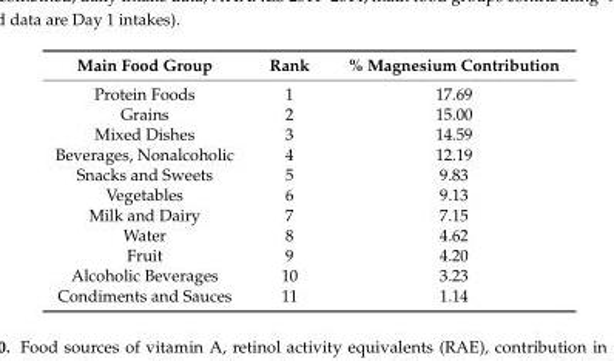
<table><thead><tr><td>Main Food Group</td><td>Rank</td><td>% Magnesium Contribution</td></tr></thead><tbody><tr><td>Protein Foods</td><td>1</td><td>17.69</td></tr><tr><td>Grains</td><td>2</td><td>15.00</td></tr><tr><td>Mixed Dishes</td><td>3</td><td>14.59</td></tr><tr><td>Beverages, Nonalcoholic</td><td>4</td><td>12.19</td></tr><tr><td>Snacks and Sweets</td><td>5</td><td>9.83</td></tr><tr><td>Vegetables</td><td>6</td><td>9.13</td></tr><tr><td>Milk and Dairy</td><td>7</td><td>7.15</td></tr><tr><td>Water</td><td>8</td><td>4.62</td></tr><tr><td>Fruit</td><td>9</td><td>4.20</td></tr><tr><td>Alcoholic Beverages</td><td>10</td><td>3.23</td></tr><tr><td>Condiments and Sauces</td><td>11</td><td>1.14</td></tr></tbody></table>